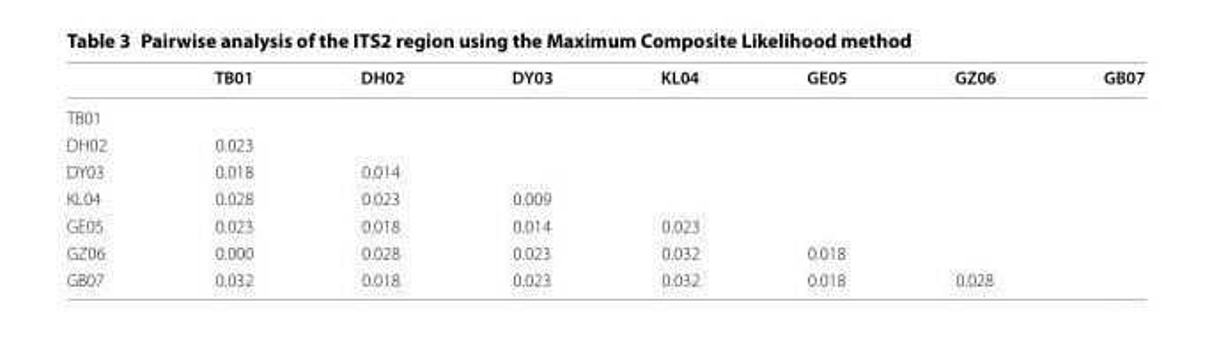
<table><thead><tr><td></td><td>TB01</td><td>DH02</td><td>DY03</td><td>KL04</td><td>GE05</td><td>GZ06</td><td>GB07</td></tr></thead><tbody><tr><td colspan="8">TB01</td></tr><tr><td>DH02</td><td>0.023</td><td></td><td></td><td></td><td></td><td></td><td></td></tr><tr><td>DY03</td><td>0.018</td><td>0.014</td><td></td><td></td><td></td><td></td><td></td></tr><tr><td>KL04</td><td>0.028</td><td>0.023</td><td>0.009</td><td></td><td></td><td></td><td></td></tr><tr><td>GE05</td><td>0.023</td><td>0.018</td><td>0.014</td><td>0.023</td><td></td><td></td><td></td></tr><tr><td>GZ06</td><td>0.000</td><td>0.028</td><td>0.023</td><td>0.032</td><td>0.018</td><td></td><td></td></tr><tr><td>GB07</td><td>0.032</td><td>0.018</td><td>0.023</td><td>0.032</td><td>0.018</td><td>0.028</td><td></td></tr></tbody></table>